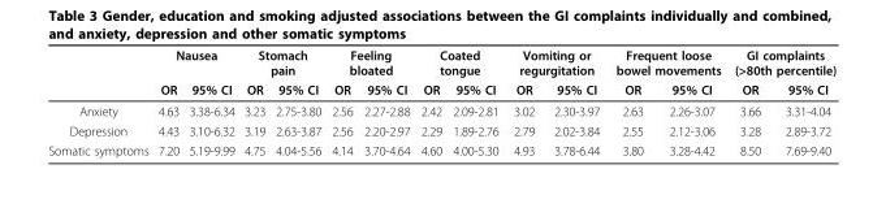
<table><thead><tr><td rowspan="2"></td><td colspan="2">Nausea</td><td colspan="2">Stomach pain</td><td colspan="2">Feeling bloated</td><td colspan="2">Coated tongue</td><td colspan="2">Vomiting or regurgitation</td><td colspan="2">Frequent loose bowel movements</td><td colspan="2">GI complaints (&gt;80th percentile)</td></tr><tr><td>OR</td><td>95% CI</td><td>OR</td><td>95% CI</td><td>OR</td><td>95% CI</td><td>OR</td><td>95% CI</td><td>OR</td><td>95% CI</td><td>OR</td><td>95% CI</td><td>OR</td><td>95% CI</td></tr></thead><tbody><tr><td>Anxiety</td><td>4.63</td><td>3.38-6.34</td><td>3.23</td><td>2.75-3.80</td><td>2.56</td><td>2.27-2.88</td><td>2.42</td><td>2.09-2.81</td><td>3.02</td><td>2.30-3.97</td><td>2.63</td><td>2.26-3.07</td><td>3.66</td><td>3.31-4.04</td></tr><tr><td>Depression</td><td>4.43</td><td>3.10-6.32</td><td>3.19</td><td>2.63-3.87</td><td>2.56</td><td>2.20-2.97</td><td>2.29</td><td>1.89-2.76</td><td>2.79</td><td>2.02-3.84</td><td>2.55</td><td>2.12-3.06</td><td>3.28</td><td>2.89-3.72</td></tr><tr><td>Somatic symptoms</td><td>7.20</td><td>5.19-9.99</td><td>4.75</td><td>4.04-5.56</td><td>4.14</td><td>3.70-4.64</td><td>4.60</td><td>4.00-5.30</td><td>4.93</td><td>3.78-6.44</td><td>3.80</td><td>3.28-4.42</td><td>8.50</td><td>7.69-9.40</td></tr></tbody></table>